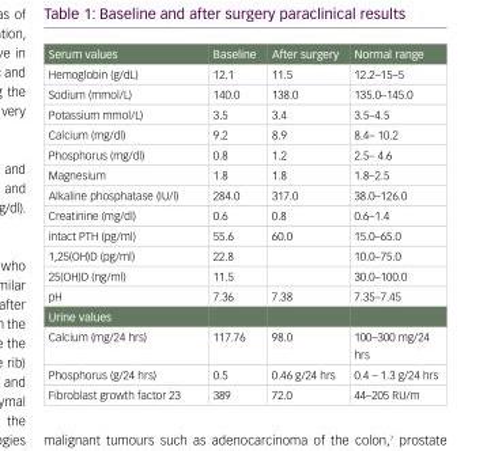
<table><thead><tr><td>Serum values</td><td>Baseline</td><td>After surgery</td><td>Normal range</td></tr></thead><tbody><tr><td>Hemoglobin (g/dL)</td><td>12.1</td><td>11.5</td><td>12.2–15–5</td></tr><tr><td>Sodium (mmol/L)</td><td>140.0</td><td>138.0</td><td>135.0–145.0</td></tr><tr><td>Potassium mmol/L)</td><td>3.5</td><td>3.4</td><td>3.5–4.5</td></tr><tr><td>Calcium (mg/dl)</td><td>9.2</td><td>8.9</td><td>8.4– 10.2</td></tr><tr><td>Phosphorus (mg/dl)</td><td>0.8</td><td>1.2</td><td>2.5– 4.6</td></tr><tr><td>Magnesium</td><td>1.8</td><td>1.8</td><td>1.8–2.5</td></tr><tr><td>Alkaline phosphatase (IU/l)</td><td>284.0</td><td>317.0</td><td>38.0–126.0</td></tr><tr><td>Creatinine (mg/dl)</td><td>0.6</td><td>0.8</td><td>0.6–1.4</td></tr><tr><td>intact PTH (pg/ml)</td><td>55.6</td><td>60.0</td><td>15.0–65.0</td></tr><tr><td>1,25(OH)D (pg/ml)</td><td>22.8</td><td></td><td>10.0–75.0</td></tr><tr><td>25(OH)D (ng/ml)</td><td>11.5</td><td></td><td>30.0–100.0</td></tr><tr><td>pH</td><td>7.36</td><td>7.38</td><td>7.35–7.45</td></tr><tr><td colspan="4">Urine values</td></tr><tr><td>Calcium (mg/24 hrs)</td><td>117.76</td><td>98.0</td><td>100–300 mg/24 hrs</td></tr><tr><td>Phosphorus (g/24 hrs)</td><td>0.5</td><td>0.46 g/24 hrs</td><td>0.4 – 1.3 g/24 hrs</td></tr><tr><td>Fibroblast growth factor 23</td><td>389</td><td>72.0</td><td>44–205 RU/m</td></tr></tbody></table>